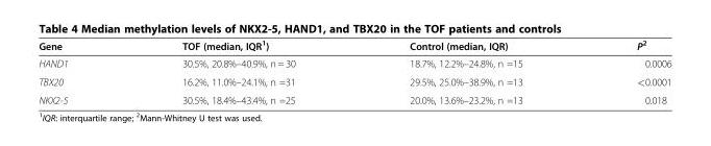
<table><thead><tr><td>Gene</td><td>TOF (median, IQR<sup>1</sup>)</td><td>Control (median, IQR)</td><td>P<sup>2</sup></td></tr></thead><tbody><tr><td>HAND1</td><td>30.5%, 20.8%–40.9%, n = 30</td><td>18.7%, 12.2%–24.8%, n =15</td><td>0.0006</td></tr><tr><td>TBX20</td><td>16.2%, 11.0%–24.1%, n =31</td><td>29.5%, 25.0%–38.9%, n =13</td><td>&lt;0.0001</td></tr><tr><td>NKX2-5</td><td>30.5%, 18.4%–43.4%, n =25</td><td>20.0%, 13.6%–23.2%, n =13</td><td>0.018</td></tr></tbody></table>